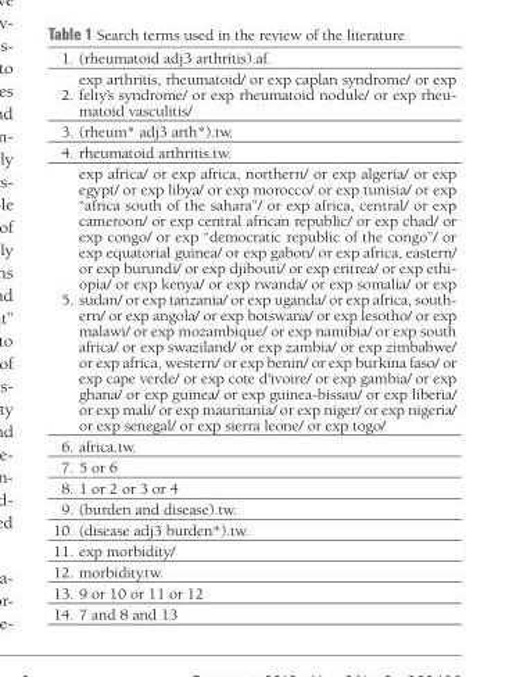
<table><tbody><tr><td>1.</td><td>(rheumatoid adj3 arthritis).af.</td></tr><tr><td>2.</td><td>exp arthritis, rheumatoid/ or exp caplan syndrome/ or exp felty’s syndrome/ or exp rheumatoid nodule/ or exp rheu- matoid vasculitis/</td></tr><tr><td>3.</td><td>(rheum* adj3 arth*).tw.</td></tr><tr><td>4.</td><td>rheumatoid arthritis.tw.</td></tr><tr><td>5.</td><td>exp africa/ or exp africa, northern/ or exp algeria/ or exp egypt/ or exp libya/ or exp morocco/ or exp tunisia/ or exp “africa south of the sahara”/ or exp africa, central/ or exp cameroon/ or exp central african republic/ or exp chad/ or exp congo/ or exp “democratic republic of the congo”/ or exp equatorial guinea/ or exp gabon/ or exp africa, eastern/ or exp burundi/ or exp djibouti/ or exp eritrea/ or exp ethi- opia/ or exp kenya/ or exp rwanda/ or exp somalia/ or exp sudan/ or exp tanzania/ or exp uganda/ or exp africa, south- ern/ or exp angola/ or exp botswana/ or exp lesotho/ or exp malawi/ or exp mozambique/ or exp namibia/ or exp south africa/ or exp swaziland/ or exp zambia/ or exp zimbabwe/ or exp africa, western/ or exp benin/ or exp burkina faso/ or exp cape verde/ or exp cote d&#x27;ivoire/ or exp gambia/ or exp ghana/ or exp guinea/ or exp guinea-bissau/ or exp liberia/ or exp mali/ or exp mauritania/ or exp niger/ or exp nigeria/ or exp senegal/ or exp sierra leone/ or exp togo/</td></tr><tr><td>6.</td><td>africa.tw.</td></tr><tr><td>7.</td><td>5 or 6</td></tr><tr><td>8.</td><td>1 or 2 or 3 or 4</td></tr><tr><td>9.</td><td>(burden and disease).tw.</td></tr><tr><td>10.</td><td>(disease adj3 burden*).tw.</td></tr><tr><td>11.</td><td>exp morbidity/</td></tr><tr><td>12.</td><td>morbidity.tw.</td></tr><tr><td>13.</td><td>9 or 10 or 11 or 12</td></tr><tr><td>14.</td><td>7 and 8 and 13</td></tr></tbody></table>